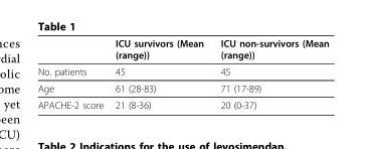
<table><thead><tr><td></td><td>ICU survivors (Mean (range))</td><td>ICU non-survivors (Mean (range))</td></tr></thead><tbody><tr><td>No. patients</td><td>45</td><td>45</td></tr><tr><td>Age</td><td>61 (28-83)</td><td>71 (17-89)</td></tr><tr><td>APACHE-2 score</td><td>21 (8-36)</td><td>20 (0-37)</td></tr></tbody></table>